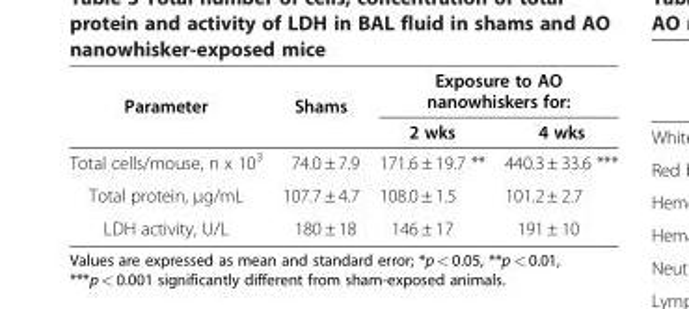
<table><thead><tr><td rowspan="2">Parameter</td><td rowspan="2">Shams</td><td colspan="2">Exposure to AO nanowhiskers for:</td></tr><tr><td>2 wks</td><td>4 wks</td></tr></thead><tbody><tr><td>Total cells/mouse, n x 10<sup>3</sup></td><td>74.0 ± 7.9</td><td>171.6 ± 19.7 **</td><td>440.3 ± 33.6 ***</td></tr><tr><td>Total protein, μg/mL</td><td>107.7 ± 4.7</td><td>108.0 ± 1.5</td><td>101.2 ± 2.7</td></tr><tr><td>LDH activity, U/L</td><td>180 ± 18</td><td>146 ± 17</td><td>191 ± 10</td></tr></tbody></table>